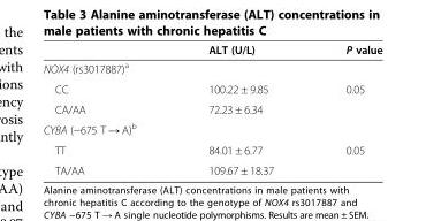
<table><thead><tr><td></td><td>ALT (U/L)</td><td>P value</td></tr></thead><tbody><tr><td colspan="3">NOX4 (rs3017887)<sup>a</sup></td></tr><tr><td>CC</td><td>100.22 ± 9.85</td><td rowspan="2">0.05</td></tr><tr><td>CA/AA</td><td>72.23 ± 6.34</td></tr><tr><td colspan="3">CYBA (−675 T → A)<sup>b</sup></td></tr><tr><td>TT</td><td>84.01 ± 6.77</td><td rowspan="2">0.05</td></tr><tr><td>TA/AA</td><td>109.67 ± 18.37</td></tr></tbody></table>